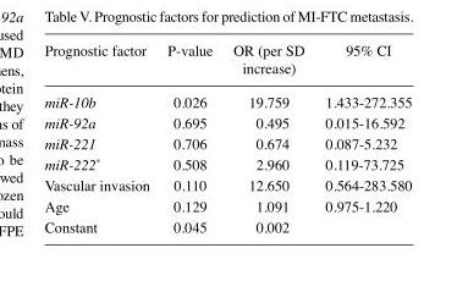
<table><thead><tr><td>Prognostic factor</td><td>P-value</td><td>OR (per SD increase)</td><td>95% CI</td></tr></thead><tbody><tr><td>miR-10b</td><td>0.026</td><td>19.759</td><td>1.433-272.355</td></tr><tr><td>miR-92a</td><td>0.695</td><td>0.495</td><td>0.015-16.592</td></tr><tr><td>miR-221</td><td>0.706</td><td>0.674</td><td>0.087-5.232</td></tr><tr><td>miR-222*</td><td>0.508</td><td>2.960</td><td>0.119-73.725</td></tr><tr><td>Vascular invasion</td><td>0.110</td><td>12.650</td><td>0.564-283.580</td></tr><tr><td>Age</td><td>0.129</td><td>1.091</td><td>0.975-1.220</td></tr><tr><td>Constant</td><td>0.045</td><td>0.002</td><td></td></tr></tbody></table>